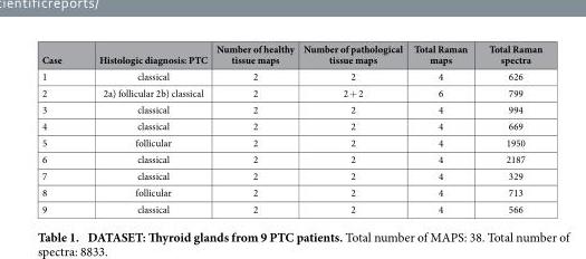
<table><thead><tr><td>Case</td><td>Histologic diagnosis: PTC</td><td>Number of healthy tissue maps</td><td>Number of pathological tissue maps</td><td>Total Raman maps</td><td>Total Raman spectra</td></tr></thead><tbody><tr><td>1</td><td>classical</td><td>2</td><td>2</td><td>4</td><td>626</td></tr><tr><td>2</td><td>2a) follicular 2b) classical</td><td>2</td><td>2 + 2</td><td>6</td><td>799</td></tr><tr><td>3</td><td>classical</td><td>2</td><td>2</td><td>4</td><td>994</td></tr><tr><td>4</td><td>classical</td><td>2</td><td>2</td><td>4</td><td>669</td></tr><tr><td>5</td><td>follicular</td><td>2</td><td>2</td><td>4</td><td>1950</td></tr><tr><td>6</td><td>classical</td><td>2</td><td>2</td><td>4</td><td>2187</td></tr><tr><td>7</td><td>classical</td><td>2</td><td>2</td><td>4</td><td>329</td></tr><tr><td>8</td><td>follicular</td><td>2</td><td>2</td><td>4</td><td>713</td></tr><tr><td>9</td><td>classical</td><td>2</td><td>2</td><td>4</td><td>566</td></tr></tbody></table>